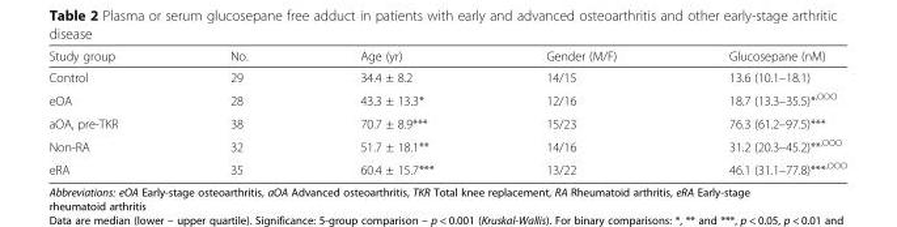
<table><thead><tr><td>Study group</td><td>No.</td><td>Age (yr)</td><td>Gender (M/F)</td><td>Glucosepane (nM)</td></tr></thead><tbody><tr><td>Control</td><td>29</td><td>34.4 ± 8.2</td><td>14/15</td><td>13.6 (10.1–18.1)</td></tr><tr><td>eOA</td><td>28</td><td>43.3 ± 13.3*</td><td>12/16</td><td>18.7 (13.3–35.5)*<sup>,OOO</sup></td></tr><tr><td>aOA, pre-TKR</td><td>38</td><td>70.7 ± 8.9***</td><td>15/23</td><td>76.3 (61.2–97.5)***</td></tr><tr><td>Non-RA</td><td>32</td><td>51.7 ± 18.1**</td><td>14/16</td><td>31.2 (20.3–45.2)**<sup>,OOO</sup></td></tr><tr><td>eRA</td><td>35</td><td>60.4 ± 15.7***</td><td>13/22</td><td>46.1 (31.1–77.8)***<sup>,OOO</sup></td></tr></tbody></table>